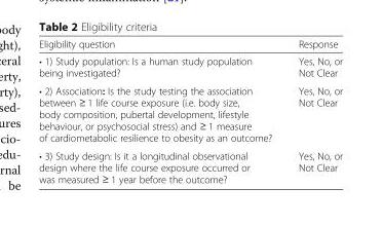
<table><thead><tr><td>Eligibility question</td><td>Response</td></tr></thead><tbody><tr><td>• 1) Study population: Is a human study population being investigated?</td><td>Yes, No, or Not Clear</td></tr><tr><td>• 2) Association: Is the study testing the association between ≥ 1 life course exposure (i.e. body size, body composition, pubertal development, lifestyle behaviour, or psychosocial stress) and ≥ 1 measure of cardiometabolic resilience to obesity as an outcome?</td><td>Yes, No, or Not Clear</td></tr><tr><td>• 3) Study design: Is it a longitudinal observational design where the life course exposure occurred or was measured ≥ 1 year before the outcome?</td><td>Yes, No, or Not Clear</td></tr></tbody></table>